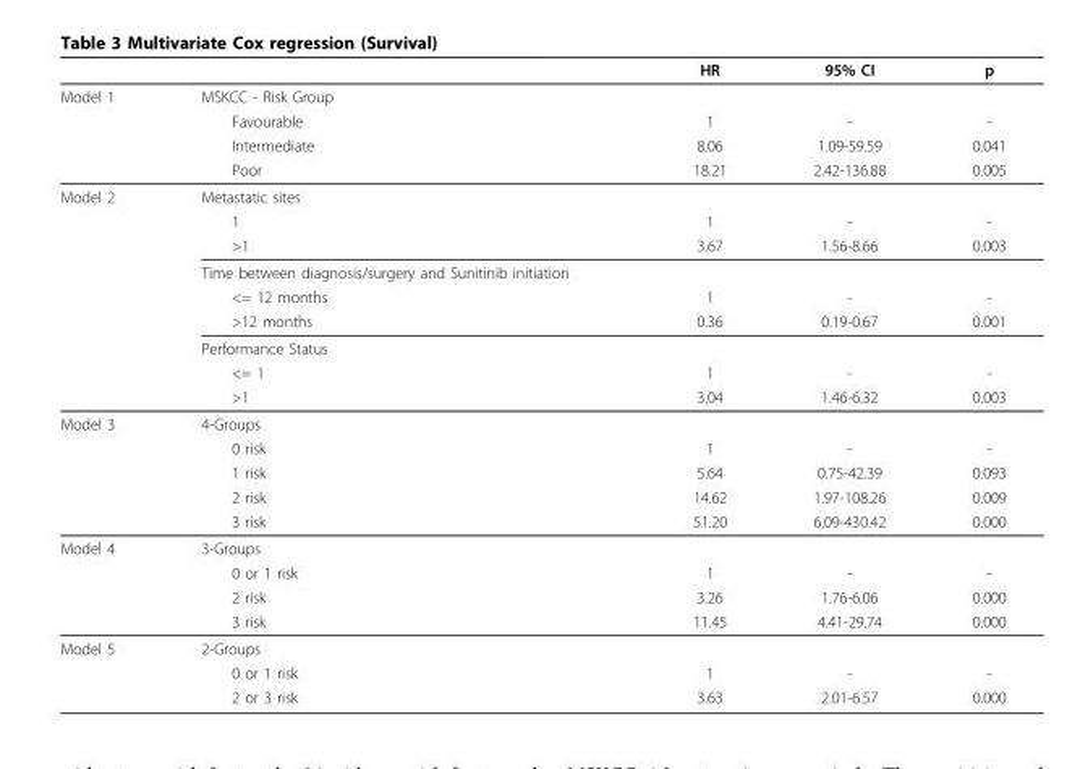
<table><thead><tr><td></td><td></td><td>HR</td><td>95% CI</td><td>p</td></tr></thead><tbody><tr><td rowspan="4">Model 1</td><td>MSKCC - Risk Group</td><td></td><td></td><td></td></tr><tr><td>Favourable</td><td>1</td><td>-</td><td>-</td></tr><tr><td>Intermediate</td><td>8.06</td><td>1.09-59.59</td><td>0.041</td></tr><tr><td>Poor</td><td>18.21</td><td>2.42-136.88</td><td>0.005</td></tr><tr><td rowspan="9">Model 2</td><td>Metastatic sites</td><td></td><td></td><td></td></tr><tr><td>1</td><td>1</td><td>-</td><td>-</td></tr><tr><td>&gt;1</td><td>3.67</td><td>1.56-8.66</td><td>0.003</td></tr><tr><td>Time between diagnosis/surgery and Sunitinib initiation</td><td></td><td></td><td></td></tr><tr><td>&lt;= 12 months</td><td>1</td><td>-</td><td>-</td></tr><tr><td>&gt;12 months</td><td>0.36</td><td>0.19-0.67</td><td>0.001</td></tr><tr><td>Performance Status</td><td></td><td></td><td></td></tr><tr><td>&lt;= 1</td><td>1</td><td>-</td><td>-</td></tr><tr><td>&gt;1</td><td>3.04</td><td>1.46-6.32</td><td>0.003</td></tr><tr><td rowspan="5">Model 3</td><td>4-Groups</td><td></td><td></td><td></td></tr><tr><td>0 risk</td><td>1</td><td>-</td><td>-</td></tr><tr><td>1 risk</td><td>5.64</td><td>0.75-42.39</td><td>0.093</td></tr><tr><td>2 risk</td><td>14.62</td><td>1.97-108.26</td><td>0.009</td></tr><tr><td>3 risk</td><td>51.20</td><td>6.09-430.42</td><td>0.000</td></tr><tr><td rowspan="4">Model 4</td><td>3-Groups</td><td></td><td></td><td></td></tr><tr><td>0 or 1 risk</td><td>1</td><td>-</td><td>-</td></tr><tr><td>2 risk</td><td>3.26</td><td>1.76-6.06</td><td>0.000</td></tr><tr><td>3 risk</td><td>11.45</td><td>4.41-29.74</td><td>0.000</td></tr><tr><td rowspan="3">Model 5</td><td>2-Groups</td><td></td><td></td><td></td></tr><tr><td>0 or 1 risk</td><td>1</td><td>-</td><td>-</td></tr><tr><td>2 or 3 risk</td><td>3.63</td><td>2.01-6.57</td><td>0.000</td></tr></tbody></table>